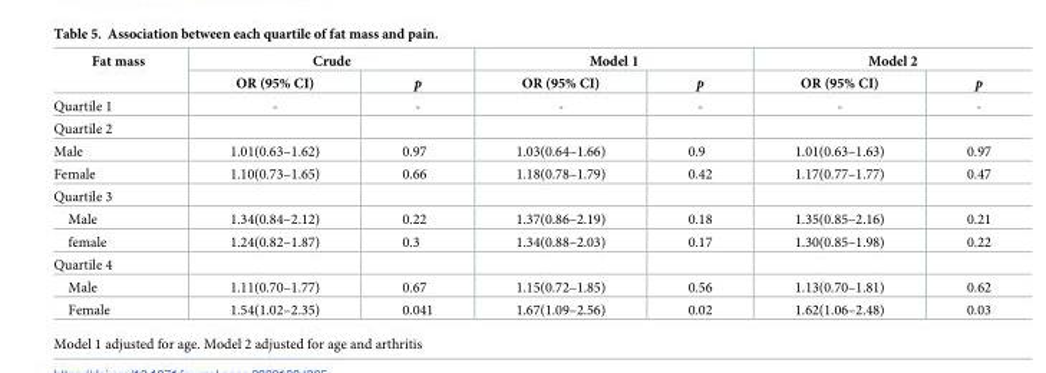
<table><thead><tr><td rowspan="2">Fat mass</td><td colspan="2">Crude</td><td colspan="2">Model 1</td><td colspan="2">Model 2</td></tr><tr><td>OR (95% CI)</td><td>p</td><td>OR (95% CI)</td><td>p</td><td>OR (95% CI)</td><td>p</td></tr></thead><tbody><tr><td>Quartile 1</td><td>-</td><td>-</td><td>-</td><td>-</td><td>-</td><td>-</td></tr><tr><td colspan="7">Quartile 2</td></tr><tr><td>Male</td><td>1.01(0.63–1.62)</td><td>0.97</td><td>1.03(0.64–1.66)</td><td>0.9</td><td>1.01(0.63–1.63)</td><td>0.97</td></tr><tr><td>Female</td><td>1.10(0.73–1.65)</td><td>0.66</td><td>1.18(0.78–1.79)</td><td>0.42</td><td>1.17(0.77–1.77)</td><td>0.47</td></tr><tr><td colspan="7">Quartile 3</td></tr><tr><td>Male</td><td>1.34(0.84–2.12)</td><td>0.22</td><td>1.37(0.86–2.19)</td><td>0.18</td><td>1.35(0.85–2.16)</td><td>0.21</td></tr><tr><td>female</td><td>1.24(0.82–1.87)</td><td>0.3</td><td>1.34(0.88–2.03)</td><td>0.17</td><td>1.30(0.85–1.98)</td><td>0.22</td></tr><tr><td colspan="7">Quartile 4</td></tr><tr><td>Male</td><td>1.11(0.70–1.77)</td><td>0.67</td><td>1.15(0.72–1.85)</td><td>0.56</td><td>1.13(0.70–1.81)</td><td>0.62</td></tr><tr><td>Female</td><td>1.54(1.02–2.35)</td><td>0.041</td><td>1.67(1.09–2.56)</td><td>0.02</td><td>1.62(1.06–2.48)</td><td>0.03</td></tr></tbody></table>